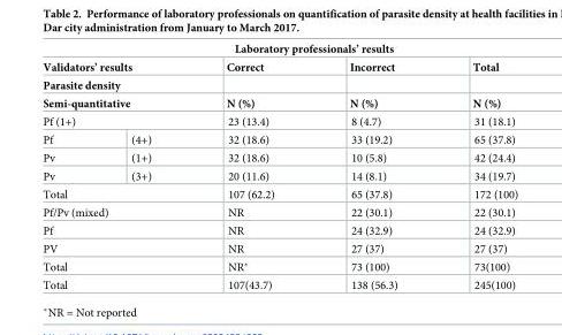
<table><thead><tr><td colspan="5">Laboratory professionals’ results</td></tr><tr><td rowspan="4" colspan="2">Validators’ results Parasite density Semi-quantitative Pf (1+)</td><td rowspan="5">Correct N (%) 23 (13.4) 32 (18.6)</td><td rowspan="5">Incorrect N (%) 8 (4.7) 33 (19.2)</td><td rowspan="5">Total N (%) 31 (18.1) 65 (37.8)</td></tr><tr></tr><tr></tr><tr></tr><tr><td>Pf</td><td>(4+)</td></tr></thead><tbody><tr><td>Pv</td><td>(1+)</td><td>32 (18.6)</td><td>10 (5.8)</td><td>42 (24.4)</td></tr><tr><td>Pv</td><td>(3+)</td><td>20 (11.6)</td><td>14 (8.1)</td><td>34 (19.7)</td></tr><tr><td colspan="2">Total</td><td>107 (62.2)</td><td>65 (37.8)</td><td>172 (100)</td></tr><tr><td colspan="2">Pf/Pv (mixed)</td><td>NR</td><td>22 (30.1)</td><td>22 (30.1)</td></tr><tr><td colspan="2">Pf</td><td>NR</td><td>24 (32.9)</td><td>24 (32.9)</td></tr><tr><td colspan="2">PV</td><td>NR</td><td>27 (37)</td><td>27 (37)</td></tr><tr><td colspan="2">Total</td><td>NR*</td><td>73 (100)</td><td>73(100)</td></tr><tr><td colspan="2">Total</td><td>107(43.7)</td><td>138 (56.3)</td><td>245(100)</td></tr></tbody></table>